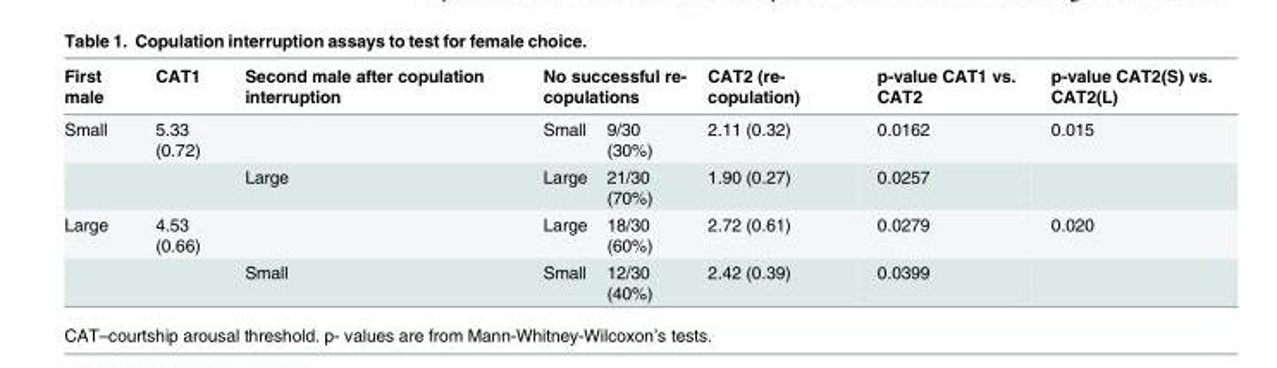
<table><thead><tr><td rowspan="2">First male Small</td><td rowspan="2">CAT1 5.33 (0.72)</td><td rowspan="2">Second male after copulation interruption</td><td colspan="2">No successful re- copulations</td><td rowspan="2">CAT2 (re- copulation) 2.11 (0.32)</td><td rowspan="2">p-value CAT1 vs. CAT2 0.0162</td><td rowspan="2">p-value CAT2(S) vs. CAT2(L) 0.015</td></tr><tr><td>Small</td><td>9/30 (30%)</td></tr></thead><tbody><tr><td></td><td></td><td>Large</td><td>Large</td><td>21/30 (70%)</td><td>1.90 (0.27)</td><td>0.0257</td><td></td></tr><tr><td rowspan="2">Large</td><td>4.53 (0.66)</td><td></td><td>Large</td><td>18/30 (60%)</td><td>2.72 (0.61)</td><td>0.0279</td><td>0.020</td></tr><tr><td></td><td>Small</td><td>Small</td><td>12/30 (40%)</td><td>2.42 (0.39)</td><td>0.0399</td><td></td></tr></tbody></table>